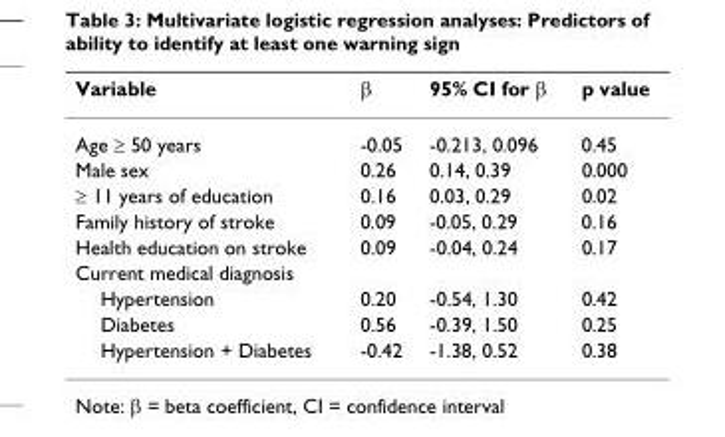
<table><thead><tr><td>Variable</td><td>β</td><td>95% CI for β</td><td>p value</td></tr></thead><tbody><tr><td>Age ≥ 50 years</td><td>-0.05</td><td>-0.213, 0.096</td><td>0.45</td></tr><tr><td>Male sex</td><td>0.26</td><td>0.14, 0.39</td><td>0.000</td></tr><tr><td>≥ 11 years of education</td><td>0.16</td><td>0.03, 0.29</td><td>0.02</td></tr><tr><td>Family history of stroke</td><td>0.09</td><td>-0.05, 0.29</td><td>0.16</td></tr><tr><td>Health education on stroke</td><td>0.09</td><td>-0.04, 0.24</td><td>0.17</td></tr><tr><td colspan="4">Current medical diagnosis</td></tr><tr><td>Hypertension</td><td>0.20</td><td>-0.54, 1.30</td><td>0.42</td></tr><tr><td>Diabetes</td><td>0.56</td><td>-0.39, 1.50</td><td>0.25</td></tr><tr><td>Hypertension + Diabetes</td><td>-0.42</td><td>-1.38, 0.52</td><td>0.38</td></tr></tbody></table>